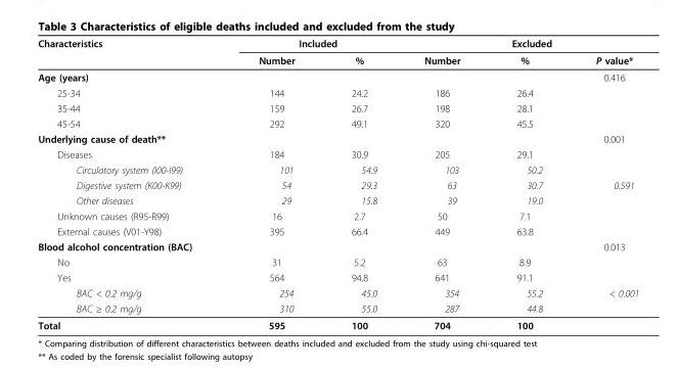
<table><thead><tr><td rowspan="2">Characteristics</td><td colspan="2">Included</td><td colspan="3">Excluded</td></tr><tr><td>Number</td><td>%</td><td>Number</td><td>%</td><td>P value*</td></tr></thead><tbody><tr><td>Age (years)</td><td></td><td></td><td></td><td></td><td>0.416</td></tr><tr><td>25-34</td><td>144</td><td>24.2</td><td>186</td><td>26.4</td><td></td></tr><tr><td>35-44</td><td>159</td><td>26.7</td><td>198</td><td>28.1</td><td></td></tr><tr><td>45-54</td><td>292</td><td>49.1</td><td>320</td><td>45.5</td><td></td></tr><tr><td>Underlying cause of death**</td><td></td><td></td><td></td><td></td><td>0.001</td></tr><tr><td>Diseases</td><td>184</td><td>30.9</td><td>205</td><td>29.1</td><td></td></tr><tr><td>Circulatory system (I00-I99)</td><td>101</td><td>54.9</td><td>103</td><td>50.2</td><td></td></tr><tr><td>Digestive system (K00-K99)</td><td>54</td><td>29.3</td><td>63</td><td>30.7</td><td>0.591</td></tr><tr><td>Other diseases</td><td>29</td><td>15.8</td><td>39</td><td>19.0</td><td></td></tr><tr><td>Unknown causes (R95-R99)</td><td>16</td><td>2.7</td><td>50</td><td>7.1</td><td></td></tr><tr><td>External causes (V01-Y98)</td><td>395</td><td>66.4</td><td>449</td><td>63.8</td><td></td></tr><tr><td>Blood alcohol concentration (BAC)</td><td></td><td></td><td></td><td></td><td>0.013</td></tr><tr><td>No</td><td>31</td><td>5.2</td><td>63</td><td>8.9</td><td></td></tr><tr><td>Yes</td><td>564</td><td>94.8</td><td>641</td><td>91.1</td><td></td></tr><tr><td>BAC &lt; 0.2 mg/g</td><td>254</td><td>45.0</td><td>354</td><td>55.2</td><td>&lt; 0.001</td></tr><tr><td>BAC ≥ 0.2 mg/g</td><td>310</td><td>55.0</td><td>287</td><td>44.8</td><td></td></tr><tr><td>Total</td><td>595</td><td>100</td><td>704</td><td>100</td><td></td></tr></tbody></table>